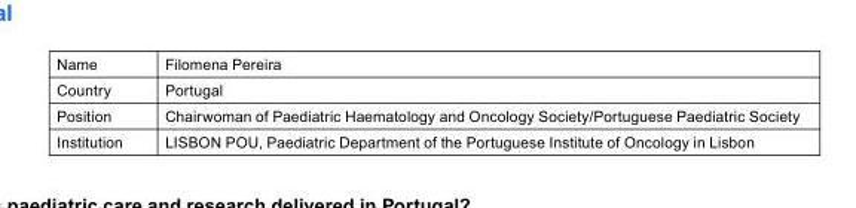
<table><tbody><tr><td>Name</td><td>Filomena Pereira</td></tr><tr><td>Country</td><td>Portugal</td></tr><tr><td>Position</td><td>Chairwoman of Paediatric Haematology and Oncology Society/Portuguese Paediatric Society</td></tr><tr><td>Institution</td><td>LISBON POU, Paediatric Department of the Portuguese Institute of Oncology in Lisbon</td></tr></tbody></table>